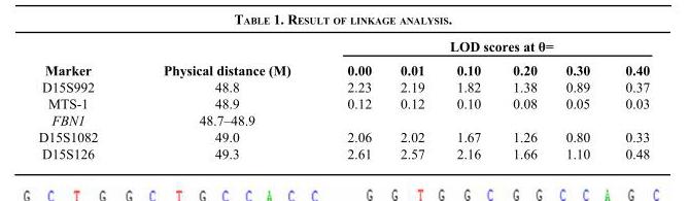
<table><thead><tr><td rowspan="2">Marker</td><td rowspan="2">Physical distance (M)</td><td colspan="6">LOD scores at θ=</td></tr><tr><td>0.00</td><td>0.01</td><td>0.10</td><td>0.20</td><td>0.30</td><td>0.40</td></tr></thead><tbody><tr><td>D15S992</td><td>48.8</td><td>2.23</td><td>2.19</td><td>1.82</td><td>1.38</td><td>0.89</td><td>0.37</td></tr><tr><td>MTS-1</td><td>48.9</td><td>0.12</td><td>0.12</td><td>0.10</td><td>0.08</td><td>0.05</td><td>0.03</td></tr><tr><td>FBN1</td><td>48.7–48.9</td><td></td><td></td><td></td><td></td><td></td><td></td></tr><tr><td>D15S1082</td><td>49.0</td><td>2.06</td><td>2.02</td><td>1.67</td><td>1.26</td><td>0.80</td><td>0.33</td></tr><tr><td>D15S126</td><td>49.3</td><td>2.61</td><td>2.57</td><td>2.16</td><td>1.66</td><td>1.10</td><td>0.48</td></tr></tbody></table>